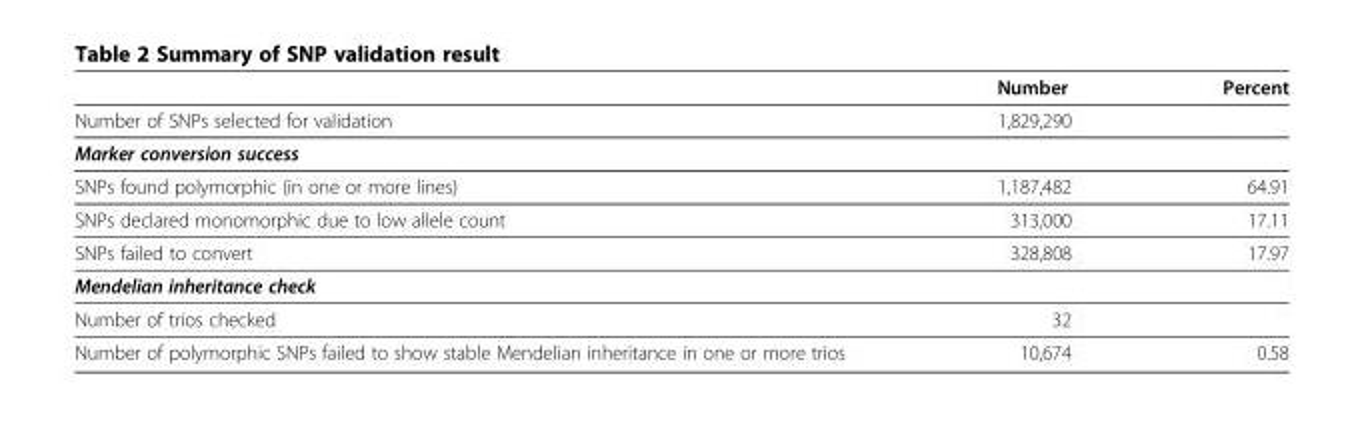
<table><thead><tr><td></td><td>Number</td><td>Percent</td></tr></thead><tbody><tr><td>Number of SNPs selected for validation</td><td>1,829,290</td><td></td></tr><tr><td colspan="3">Marker conversion success</td></tr><tr><td>SNPs found polymorphic (in one or more lines)</td><td>1,187,482</td><td>64.91</td></tr><tr><td>SNPs declared monomorphic due to low allele count</td><td>313,000</td><td>17.11</td></tr><tr><td>SNPs failed to convert</td><td>328,808</td><td>17.97</td></tr><tr><td colspan="3">Mendelian inheritance check</td></tr><tr><td>Number of trios checked</td><td>32</td><td></td></tr><tr><td>Number of polymorphic SNPs failed to show stable Mendelian inheritance in one or more trios</td><td>10,674</td><td>0.58</td></tr></tbody></table>